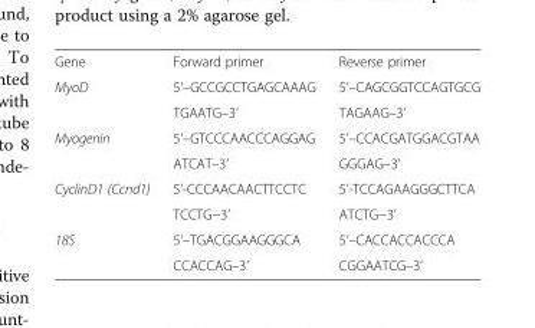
<table><tbody><tr><td>Gene</td><td>Forward primer</td><td>Reverse primer</td></tr><tr><td rowspan="2">MyoD</td><td>5’–GCCGCCTGAGCAAAG</td><td>5’–CAGCGGTCCAGTGCG</td></tr><tr><td>TGAATG–3’</td><td>TAGAAG–3’</td></tr><tr><td rowspan="2">Myogenin</td><td>5’–GTCCCAACCCAGGAG</td><td>5’–CCACGATGGACGTAA</td></tr><tr><td>ATCAT–3’</td><td>GGGAG–3’</td></tr><tr><td rowspan="2">CyclinD1 (Ccnd1)</td><td>5’-CCCAACAACTTCCTC</td><td>5’-TCCAGAAGGGCTTCA</td></tr><tr><td>TCCTG−3’</td><td>ATCTG−3’</td></tr><tr><td rowspan="2">18S</td><td>5’–TGACGGAAGGGCA</td><td>5’–CACCACCACCCA</td></tr><tr><td>CCACCAG–3’</td><td>CGGAATCG–3’</td></tr></tbody></table>